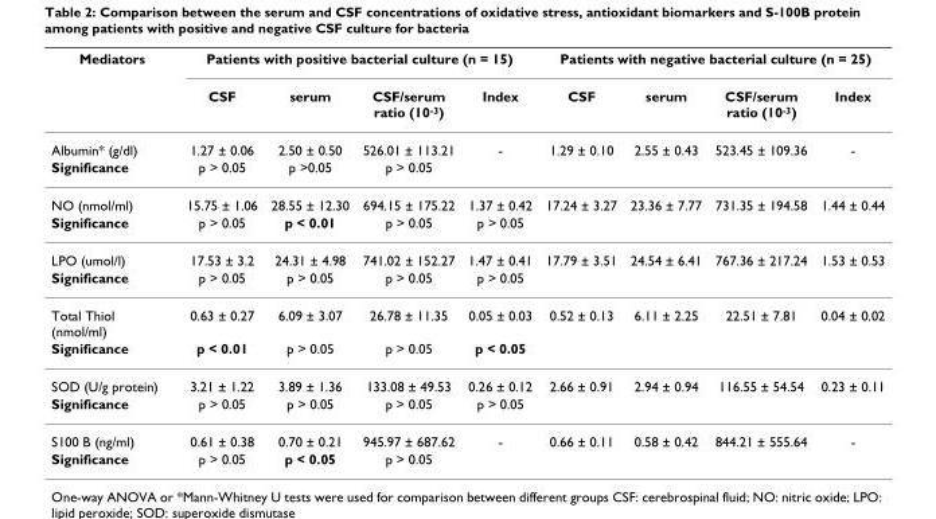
<table><thead><tr><td rowspan="2">Mediators</td><td colspan="4">Patients with positive bacterial culture (n = 15)</td><td colspan="4">Patients with negative bacterial culture (n = 25)</td></tr><tr><td>CSF</td><td>serum</td><td>CSF/serum ratio (10<sup>-3</sup>)</td><td>Index</td><td>CSF</td><td>serum</td><td>CSF/serum ratio (10<sup>-3</sup>)</td><td>Index</td></tr></thead><tbody><tr><td>Albumin* (g/dl)</td><td>1.27 ± 0.06</td><td>2.50 ± 0.50</td><td>526.01 ± 113.21</td><td>-</td><td>1.29 ± 0.10</td><td>2.55 ± 0.43</td><td>523.45 ± 109.36</td><td>-</td></tr><tr><td>Significance</td><td>p &gt; 0.05</td><td>p &gt;0.05</td><td>p &gt; 0.05</td><td></td><td></td><td></td><td></td><td></td></tr><tr><td>NO (nmol/ml)</td><td>15.75 ± 1.06</td><td>28.55 ± 12.30</td><td>694.15 ± 175.22</td><td>1.37 ± 0.42</td><td>17.24 ± 3.27</td><td>23.36 ± 7.77</td><td>731.35 ± 194.58</td><td>1.44 ± 0.44</td></tr><tr><td>Significance</td><td>p &gt; 0.05</td><td>p &lt; 0.01</td><td>p &gt; 0.05</td><td>p &gt; 0.05</td><td></td><td></td><td></td><td></td></tr><tr><td>LPO (umol/l)</td><td>17.53 ± 3.2</td><td>24.31 ± 4.98</td><td>741.02 ± 152.27</td><td>1.47 ± 0.41</td><td>17.79 ± 3.51</td><td>24.54 ± 6.41</td><td>767.36 ± 217.24</td><td>1.53 ± 0.53</td></tr><tr><td>Significance</td><td>p &gt; 0.05</td><td>p &gt; 0.05</td><td>p &gt; 0.05</td><td>p &gt; 0.05</td><td></td><td></td><td></td><td></td></tr><tr><td>Total Thiol (nmol/ml)</td><td>0.63 ± 0.27</td><td>6.09 ± 3.07</td><td>26.78 ± 11.35</td><td>0.05 ± 0.03</td><td>0.52 ± 0.13</td><td>6.11 ± 2.25</td><td>22.51 ± 7.81</td><td>0.04 ± 0.02</td></tr><tr><td>Significance</td><td>p &lt; 0.01</td><td>p &gt; 0.05</td><td>p &gt; 0.05</td><td>p &lt; 0.05</td><td></td><td></td><td></td><td></td></tr><tr><td>SOD (U/g protein)</td><td>3.21 ± 1.22</td><td>3.89 ± 1.36</td><td>133.08 ± 49.53</td><td>0.26 ± 0.12</td><td>2.66 ± 0.91</td><td>2.94 ± 0.94</td><td>116.55 ± 54.54</td><td>0.23 ± 0.11</td></tr><tr><td>Significance</td><td>p &gt; 0.05</td><td>p &gt; 0.05</td><td>p &gt; 0.05</td><td>p &gt; 0.05</td><td></td><td></td><td></td><td></td></tr><tr><td>S100 B (ng/ml)</td><td>0.61 ± 0.38</td><td>0.70 ± 0.21</td><td>945.97 ± 687.62</td><td>-</td><td>0.66 ± 0.11</td><td>0.58 ± 0.42</td><td>844.21 ± 555.64</td><td>-</td></tr><tr><td>Significance</td><td>p &gt; 0.05</td><td>p &lt; 0.05</td><td>p &gt; 0.05</td><td></td><td></td><td></td><td></td><td></td></tr></tbody></table>